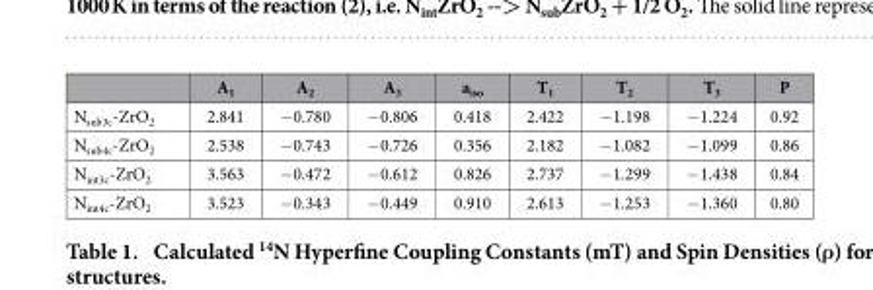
<table><thead><tr><td></td><td>A<sub>1</sub></td><td>A<sub>2</sub></td><td>A<sub>3</sub></td><td>a<sub>iso</sub></td><td>T<sub>1</sub></td><td>T<sub>2</sub></td><td>T<sub>3</sub></td><td>Ρ</td></tr></thead><tbody><tr><td>N<sub>sub3c</sub>-ZrO<sub>2</sub></td><td>2.841</td><td>− 0.780</td><td>− 0.806</td><td>0.418</td><td>2.422</td><td>− 1.198</td><td>− 1.224</td><td>0.92</td></tr><tr><td>N<sub>sub4c</sub>-ZrO<sub>2</sub></td><td>2.538</td><td>− 0.743</td><td>− 0.726</td><td>0.356</td><td>2.182</td><td>− 1.082</td><td>− 1.099</td><td>0.86</td></tr><tr><td>N<sub>int3c</sub>-ZrO<sub>2</sub></td><td>3.563</td><td>− 0.472</td><td>− 0.612</td><td>0.826</td><td>2.737</td><td>− 1.299</td><td>− 1.438</td><td>0.84</td></tr><tr><td>N<sub>int4c</sub>-ZrO<sub>2</sub></td><td>3.523</td><td>− 0.343</td><td>− 0.449</td><td>0.910</td><td>2.613</td><td>− 1.253</td><td>− 1.360</td><td>0.80</td></tr></tbody></table>